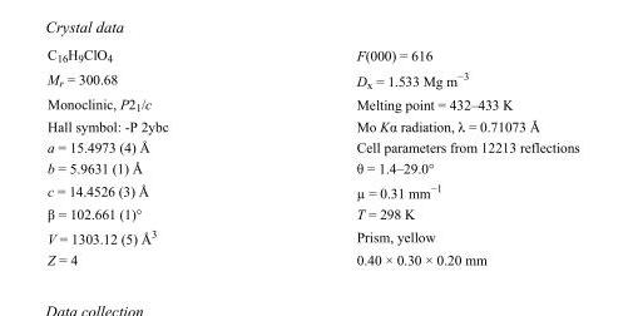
<table><tbody><tr><td>C<sub>16</sub>H<sub>9</sub>ClO<sub>4</sub></td><td>F(000) = 616</td></tr><tr><td>M<sub>r</sub> = 300.68</td><td>D<sub>x</sub> = 1.533 Mg m<sup>−3</sup></td></tr><tr><td>Monoclinic, P2<sub>1</sub>/c</td><td>Melting point = 432–433 K</td></tr><tr><td>Hall symbol: -P 2ybc</td><td>Mo Kα radiation, λ = 0.71073 Å</td></tr><tr><td>a = 15.4973 (4) Å</td><td>Cell parameters from 12213 reflections</td></tr><tr><td>b = 5.9631 (1) Å</td><td>θ = 1.4–29.0°</td></tr><tr><td>c = 14.4526 (3) Å</td><td>µ = 0.31 mm<sup>−1</sup></td></tr><tr><td>β = 102.661 (1)°</td><td>T = 298 K</td></tr><tr><td>V = 1303.12 (5) Å<sup>3</sup></td><td>Prism, yellow</td></tr><tr><td>Z = 4</td><td>0.40 × 0.30 × 0.20 mm</td></tr></tbody></table>